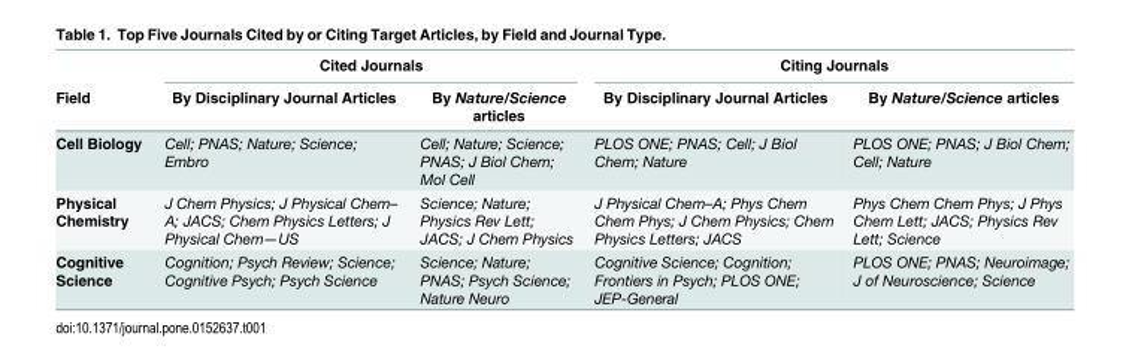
<table><thead><tr><td rowspan="2">Field</td><td colspan="2">Cited Journals</td><td colspan="2">Citing Journals</td></tr><tr><td>By Disciplinary Journal Articles</td><td>By Nature/Science articles</td><td>By Disciplinary Journal Articles</td><td>By Nature/Science articles</td></tr></thead><tbody><tr><td>Cell Biology</td><td>Cell; PNAS; Nature; Science; Embro</td><td>Cell; Nature; Science; PNAS; J Biol Chem; Mol Cell</td><td>PLOS ONE; PNAS; Cell; J Biol Chem; Nature</td><td>PLOS ONE; PNAS; J Biol Chem; Cell; Nature</td></tr><tr><td>Physical Chemistry</td><td>J Chem Physics; J Physical Chem– A; JACS; Chem Physics Letters; J Physical Chem—US</td><td>Science; Nature; Physics Rev Lett; JACS; J Chem Physics</td><td>J Physical Chem–A; Phys Chem Chem Phys; J Chem Physics; Chem Physics Letters; JACS</td><td>Phys Chem Chem Phys; J Phys Chem Lett; JACS; Physics Rev Lett; Science</td></tr><tr><td>Cognitive Science</td><td>Cognition; Psych Review; Science; Cognitive Psych; Psych Science</td><td>Science; Nature; PNAS; Psych Science; Nature Neuro</td><td>Cognitive Science; Cognition; Frontiers in Psych; PLOS ONE; JEP-General</td><td>PLOS ONE; PNAS; Neuroimage; J of Neuroscience; Science</td></tr></tbody></table>